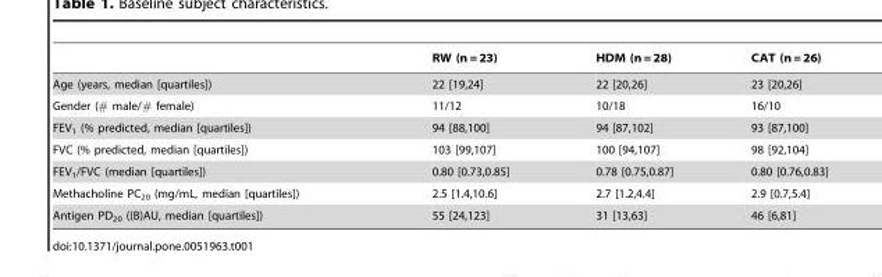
<table><thead><tr><td></td><td>RW (n = 23)</td><td>HDM (n = 28)</td><td>CAT (n = 26)</td></tr></thead><tbody><tr><td>Age (years, median [quartiles])</td><td>22 [19,24]</td><td>22 [20,26]</td><td>23 [20,26]</td></tr><tr><td>Gender (# male/# female)</td><td>11/12</td><td>10/18</td><td>16/10</td></tr><tr><td>FEV<sub>1</sub> (% predicted, median [quartiles])</td><td>94 [88,100]</td><td>94 [87,102]</td><td>93 [87,100]</td></tr><tr><td>FVC (% predicted, median [quartiles])</td><td>103 [99,107]</td><td>100 [94,107]</td><td>98 [92,104]</td></tr><tr><td>FEV<sub>1</sub>/FVC (median [quartiles])</td><td>0.80 [0.73,0.85]</td><td>0.78 [0.75,0.87]</td><td>0.80 [0.76,0.83]</td></tr><tr><td>Methacholine PC<sub>20</sub> (mg/mL, median [quartiles])</td><td>2.5 [1.4,10.6]</td><td>2.7 [1.2,4.4]</td><td>2.9 [0.7,5.4]</td></tr><tr><td>Antigen PD<sub>20</sub> ((B)AU, median [quartiles])</td><td>55 [24,123]</td><td>31 [13,63]</td><td>46 [6,81]</td></tr></tbody></table>